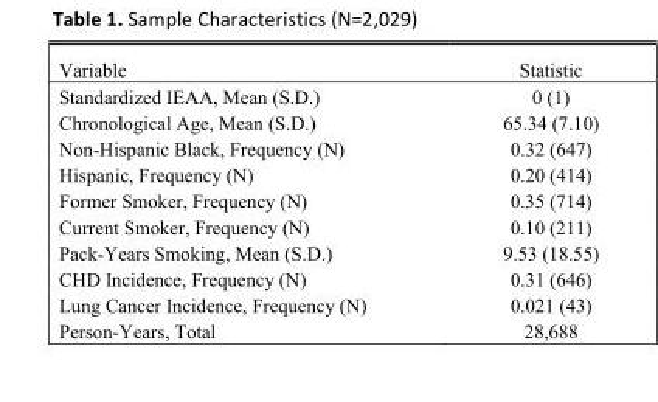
<table><thead><tr><td>Variable</td><td>Statistic</td></tr></thead><tbody><tr><td>Standardized IEAA, Mean (S.D.)</td><td>0 (1)</td></tr><tr><td>Chronological Age, Mean (S.D.)</td><td>65.34 (7.10)</td></tr><tr><td>Non-Hispanic Black, Frequency (N)</td><td>0.32 (647)</td></tr><tr><td>Hispanic, Frequency (N)</td><td>0.20 (414)</td></tr><tr><td>Former Smoker, Frequency (N)</td><td>0.35 (714)</td></tr><tr><td>Current Smoker, Frequency (N)</td><td>0.10 (211)</td></tr><tr><td>Pack-Years Smoking, Mean (S.D.)</td><td>9.53 (18.55)</td></tr><tr><td>CHD Incidence, Frequency (N)</td><td>0.31 (646)</td></tr><tr><td>Lung Cancer Incidence, Frequency (N)</td><td>0.021 (43)</td></tr><tr><td>Person-Years, Total</td><td>28,688</td></tr></tbody></table>